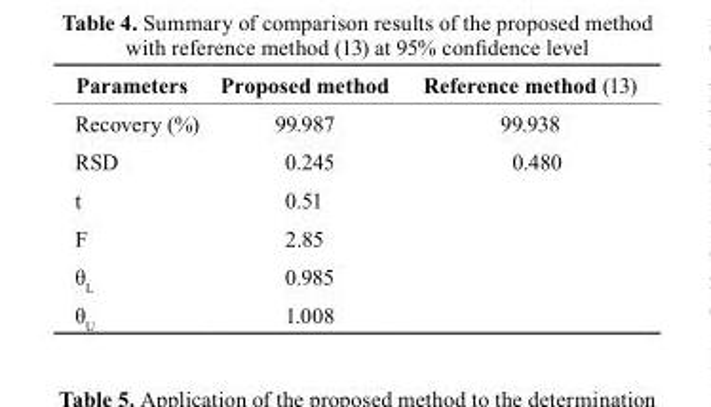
<table><thead><tr><td>Parameters</td><td>Proposed method</td><td>reference method (13)</td></tr></thead><tbody><tr><td>Recovery (%)</td><td>99.987</td><td>99.938</td></tr><tr><td>RSD</td><td>0.245</td><td>0.480</td></tr><tr><td>t</td><td>0.51</td><td></td></tr><tr><td>F</td><td>2.85</td><td></td></tr><tr><td>θ<sub>L</sub></td><td>0.985</td><td></td></tr><tr><td>θ<sub>U</sub></td><td>1.008</td><td></td></tr></tbody></table>